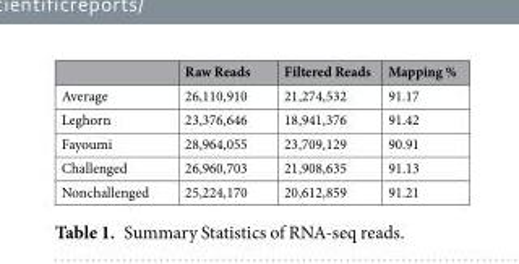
<table><thead><tr><td></td><td>Raw Reads</td><td>Filtered Reads</td><td>Mapping %</td></tr></thead><tbody><tr><td>Average</td><td>26,110,910</td><td>21,274,532</td><td>91.17</td></tr><tr><td>Leghorn</td><td>23,376,646</td><td>18,941,376</td><td>91.42</td></tr><tr><td>Fayoumi</td><td>28,964,055</td><td>23,709,129</td><td>90.91</td></tr><tr><td>Challenged</td><td>26,960,703</td><td>21,908,635</td><td>91.13</td></tr><tr><td>Nonchallenged</td><td>25,224,170</td><td>20,612,859</td><td>91.21</td></tr></tbody></table>